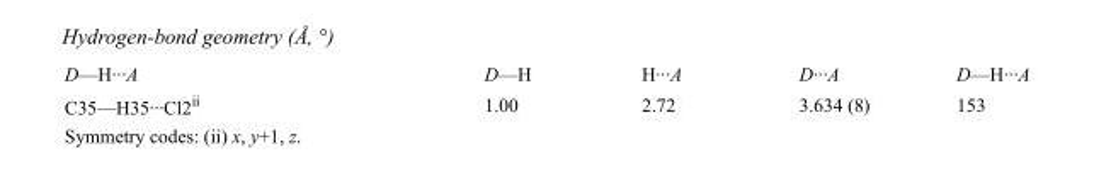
<table><tbody><tr><td>D—H···A</td><td>D—H</td><td>H···A</td><td>D···A</td><td>D—H···A</td></tr><tr><td>C35—H35···Cl2<sup>ii</sup></td><td>1.00</td><td>2.72</td><td>3.634 (8)</td><td>153</td></tr></tbody></table>